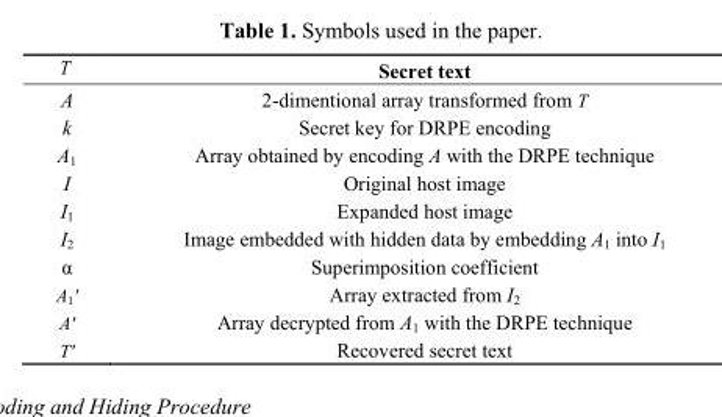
<table><thead><tr><td>T</td><td>Secret text</td></tr></thead><tbody><tr><td>A</td><td>2-dimentional array transformed from T</td></tr><tr><td>k</td><td>Secret key for DRPE encoding</td></tr><tr><td>A<sub>1</sub></td><td>Array obtained by encoding A with the DRPE technique</td></tr><tr><td>I</td><td>Original host image</td></tr><tr><td>I<sub>1</sub></td><td>Expanded host image</td></tr><tr><td>I<sub>2</sub></td><td>Image embedded with hidden data by embedding A<sub>1</sub> into I<sub>1</sub></td></tr><tr><td>α</td><td>Superimposition coefficient</td></tr><tr><td>A<sub>1</sub>&#x27;</td><td>Array extracted from I<sub>2</sub></td></tr><tr><td>A&#x27;</td><td>Array decrypted from A<sub>1</sub> with the DRPE technique</td></tr><tr><td>T&#x27;</td><td>Recovered secret text</td></tr></tbody></table>